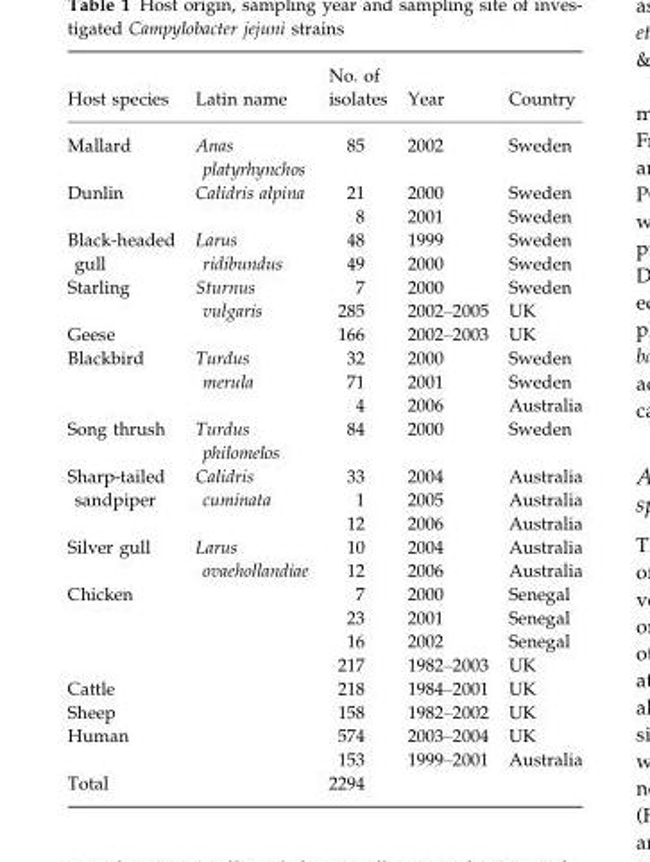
<table><thead><tr><td>Host species</td><td>Latin name</td><td>No. of isolates</td><td>Year</td><td>Country</td></tr></thead><tbody><tr><td>Mallard</td><td>Anas platyrhynchos</td><td>85</td><td>2002</td><td>Sweden</td></tr><tr><td rowspan="2">Dunlin</td><td rowspan="2">Calidris alpina</td><td>21</td><td>2000</td><td>Sweden</td></tr><tr><td>8</td><td>2001</td><td>Sweden</td></tr><tr><td rowspan="2">Black-headed gull</td><td rowspan="2">Larus ridibundus</td><td>48</td><td>1999</td><td>Sweden</td></tr><tr><td>49</td><td>2000</td><td>Sweden</td></tr><tr><td rowspan="2">Starling</td><td rowspan="2">Sturnus vulgaris</td><td>7</td><td>2000</td><td>Sweden</td></tr><tr><td>285</td><td>2002–2005</td><td>UK</td></tr><tr><td>Geese</td><td></td><td>166</td><td>2002–2003</td><td>UK</td></tr><tr><td rowspan="3">Blackbird</td><td rowspan="3">Turdus merula</td><td>32</td><td>2000</td><td>Sweden</td></tr><tr><td>71</td><td>2001</td><td>Sweden</td></tr><tr><td>4</td><td>2006</td><td>Australia</td></tr><tr><td>Song thrush</td><td>Turdus philomelos</td><td>84</td><td>2000</td><td>Sweden</td></tr><tr><td rowspan="3">Sharp-tailed sandpiper</td><td rowspan="3">Calidris cuminata</td><td>33</td><td>2004</td><td>Australia</td></tr><tr><td>1</td><td>2005</td><td>Australia</td></tr><tr><td>12</td><td>2006</td><td>Australia</td></tr><tr><td rowspan="2">Silver gull</td><td rowspan="2">Larus ovaehollandiae</td><td>10</td><td>2004</td><td>Australia</td></tr><tr><td>12</td><td>2006</td><td>Australia</td></tr><tr><td rowspan="4">Chicken</td><td></td><td>7</td><td>2000</td><td>Senegal</td></tr><tr><td></td><td>23</td><td>2001</td><td>Senegal</td></tr><tr><td></td><td>16</td><td>2002</td><td>Senegal</td></tr><tr><td></td><td>217</td><td>1982–2003</td><td>UK</td></tr><tr><td>Cattle</td><td></td><td>218</td><td>1984–2001</td><td>UK</td></tr><tr><td>Sheep</td><td></td><td>158</td><td>1982–2002</td><td>UK</td></tr><tr><td rowspan="2">Human</td><td></td><td>574</td><td>2003–2004</td><td>UK</td></tr><tr><td></td><td>153</td><td>1999–2001</td><td>Australia</td></tr><tr><td>Total</td><td></td><td>2294</td><td></td><td></td></tr></tbody></table>